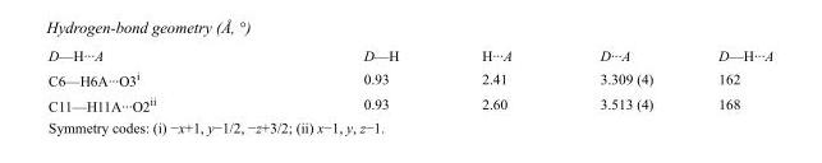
<table><tbody><tr><td>D—H···A</td><td>D—H</td><td>H···A</td><td>D···A</td><td>D—H···A</td></tr><tr><td>C6—H6A···O3<sup>i</sup></td><td>0.93</td><td>2.41</td><td>3.309 (4)</td><td>162</td></tr><tr><td>C11—H11A···O2<sup>ii</sup></td><td>0.93</td><td>2.60</td><td>3.513 (4)</td><td>168</td></tr></tbody></table>